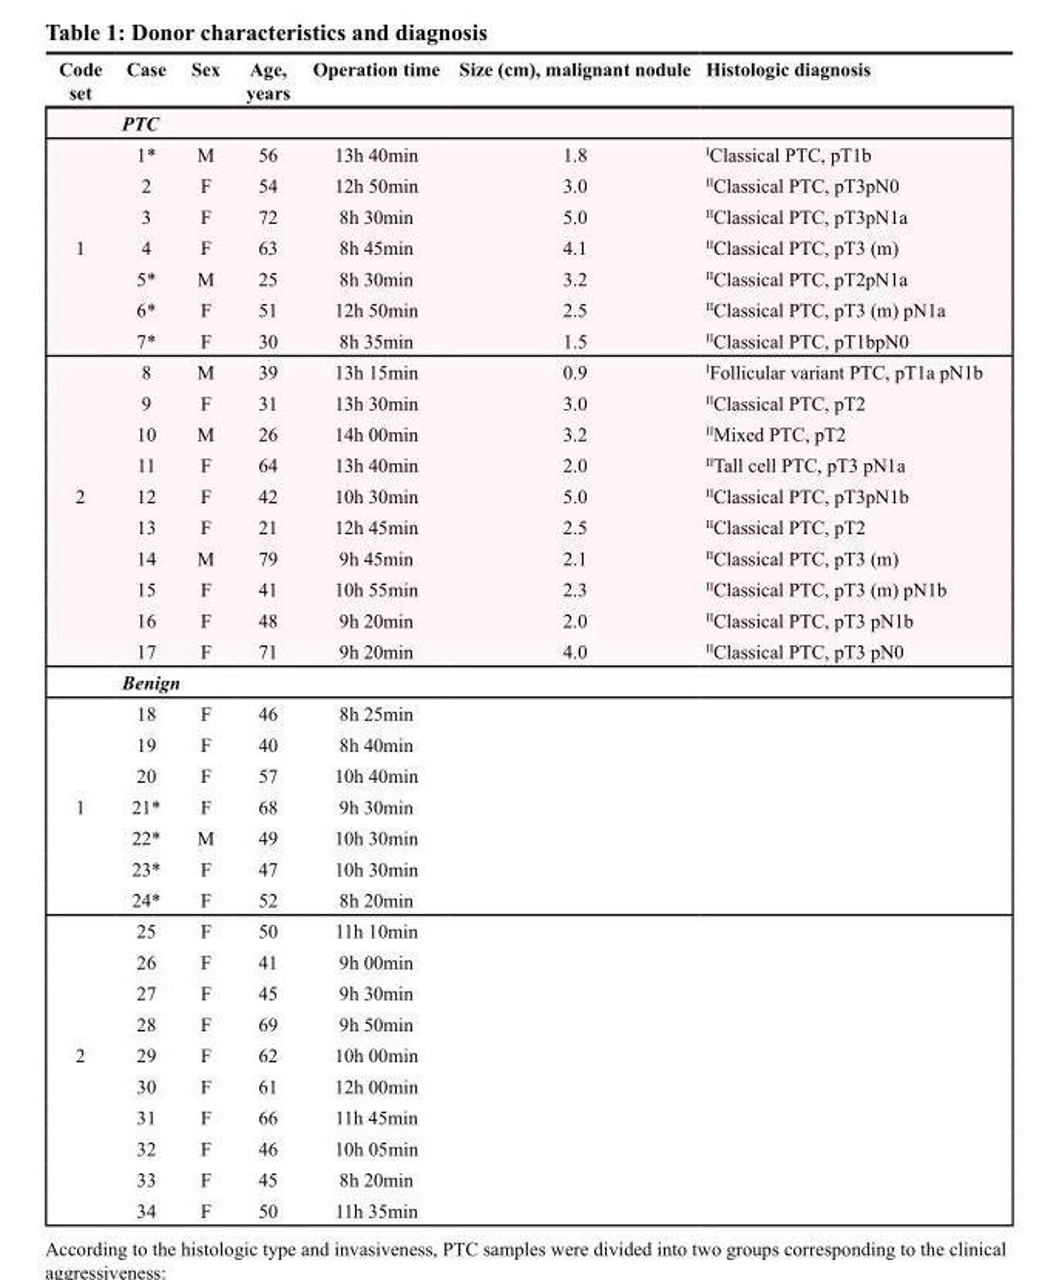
<table><thead><tr><td>Code set</td><td>Case</td><td>Sex</td><td>Age, years</td><td>Operation time</td><td>Size (cm), malignant nodule</td><td>Histologic diagnosis</td></tr></thead><tbody><tr><td colspan="7">PTC</td></tr><tr><td rowspan="7">1</td><td>1*</td><td>M</td><td>56</td><td>13h 40min</td><td>1.8</td><td><sup>I</sup>Classical PTC, pT1b</td></tr><tr><td>2</td><td>F</td><td>54</td><td>12h 50min</td><td>3.0</td><td><sup>II</sup>Classical PTC, pT3pN0</td></tr><tr><td>3</td><td>F</td><td>72</td><td>8h 30min</td><td>5.0</td><td><sup>II</sup>Classical PTC, pT3pN1a</td></tr><tr><td>4</td><td>F</td><td>63</td><td>8h 45min</td><td>4.1</td><td><sup>II</sup>Classical PTC, pT3 (m)</td></tr><tr><td>5*</td><td>M</td><td>25</td><td>8h 30min</td><td>3.2</td><td><sup>II</sup>Classical PTC, pT2pN1a</td></tr><tr><td>6*</td><td>F</td><td>51</td><td>12h 50min</td><td>2.5</td><td><sup>II</sup>Classical PTC, pT3 (m) pN1a</td></tr><tr><td>7*</td><td>F</td><td>30</td><td>8h 35min</td><td>1.5</td><td><sup>II</sup>Classical PTC, pT1bpN0</td></tr><tr><td rowspan="10">2</td><td>8</td><td>M</td><td>39</td><td>13h 15min</td><td>0.9</td><td><sup>I</sup>Follicular variant PTC, pT1a pN1b</td></tr><tr><td>9</td><td>F</td><td>31</td><td>13h 30min</td><td>3.0</td><td><sup>II</sup>Classical PTC, pT2</td></tr><tr><td>10</td><td>M</td><td>26</td><td>14h 00min</td><td>3.2</td><td><sup>II</sup>Mixed PTC, pT2</td></tr><tr><td>11</td><td>F</td><td>64</td><td>13h 40min</td><td>2.0</td><td><sup>II</sup>Tall cell PTC, pT3 pN1a</td></tr><tr><td>12</td><td>F</td><td>42</td><td>10h 30min</td><td>5.0</td><td><sup>II</sup>Classical PTC, pT3pN1b</td></tr><tr><td>13</td><td>F</td><td>21</td><td>12h 45min</td><td>2.5</td><td><sup>II</sup>Classical PTC, pT2</td></tr><tr><td>14</td><td>M</td><td>79</td><td>9h 45min</td><td>2.1</td><td><sup>II</sup>Classical PTC, pT3 (m)</td></tr><tr><td>15</td><td>F</td><td>41</td><td>10h 55min</td><td>2.3</td><td><sup>II</sup>Classical PTC, pT3 (m) pN1b</td></tr><tr><td>16</td><td>F</td><td>48</td><td>9h 20min</td><td>2.0</td><td><sup>II</sup>Classical PTC, pT3 pN1b</td></tr><tr><td>17</td><td>F</td><td>71</td><td>9h 20min</td><td>4.0</td><td><sup>II</sup>Classical PTC, pT3 pN0</td></tr><tr><td colspan="7">Benign</td></tr><tr><td rowspan="7">1</td><td>18</td><td>F</td><td>46</td><td>8h 25min</td><td></td><td></td></tr><tr><td>19</td><td>F</td><td>40</td><td>8h 40min</td><td></td><td></td></tr><tr><td>20</td><td>F</td><td>57</td><td>10h 40min</td><td></td><td></td></tr><tr><td>21*</td><td>F</td><td>68</td><td>9h 30min</td><td></td><td></td></tr><tr><td>22*</td><td>M</td><td>49</td><td>10h 30min</td><td></td><td></td></tr><tr><td>23*</td><td>F</td><td>47</td><td>10h 30min</td><td></td><td></td></tr><tr><td>24*</td><td>F</td><td>52</td><td>8h 20min</td><td></td><td></td></tr><tr><td rowspan="10">2</td><td>25</td><td>F</td><td>50</td><td>11h 10min</td><td></td><td></td></tr><tr><td>26</td><td>F</td><td>41</td><td>9h 00min</td><td></td><td></td></tr><tr><td>27</td><td>F</td><td>45</td><td>9h 30min</td><td></td><td></td></tr><tr><td>28</td><td>F</td><td>69</td><td>9h 50min</td><td></td><td></td></tr><tr><td>29</td><td>F</td><td>62</td><td>10h 00min</td><td></td><td></td></tr><tr><td>30</td><td>F</td><td>61</td><td>12h 00min</td><td></td><td></td></tr><tr><td>31</td><td>F</td><td>66</td><td>11h 45min</td><td></td><td></td></tr><tr><td>32</td><td>F</td><td>46</td><td>10h 05min</td><td></td><td></td></tr><tr><td>33</td><td>F</td><td>45</td><td>8h 20min</td><td></td><td></td></tr><tr><td>34</td><td>F</td><td>50</td><td>11h 35min</td><td></td><td></td></tr></tbody></table>